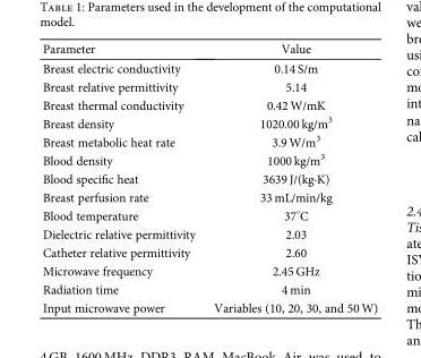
<table><thead><tr><td>Parameter</td><td>Value</td></tr></thead><tbody><tr><td>Breast electric conductivity</td><td>0.14 S/m</td></tr><tr><td>Breast relative permittivity</td><td>5.14</td></tr><tr><td>Breast thermal conductivity</td><td>0.42 W/mK</td></tr><tr><td>Breast density</td><td>1020.00 kg/m<sup>3</sup></td></tr><tr><td>Breast metabolic heat rate</td><td>3.9 W/m<sup>3</sup></td></tr><tr><td>Blood density</td><td>1000 kg/m<sup>3</sup></td></tr><tr><td>Blood specific heat</td><td>3639 J/(kg·K)</td></tr><tr><td>Breast perfusion rate</td><td>33 mL/min/kg</td></tr><tr><td>Blood temperature</td><td>37°C</td></tr><tr><td>Dielectric relative permittivity</td><td>2.03</td></tr><tr><td>Catheter relative permittivity</td><td>2.60</td></tr><tr><td>Microwave frequency</td><td>2.45 GHz</td></tr><tr><td>Radiation time</td><td>4 min</td></tr><tr><td>Input microwave power</td><td>Variables (10, 20, 30, and 50 W)</td></tr></tbody></table>